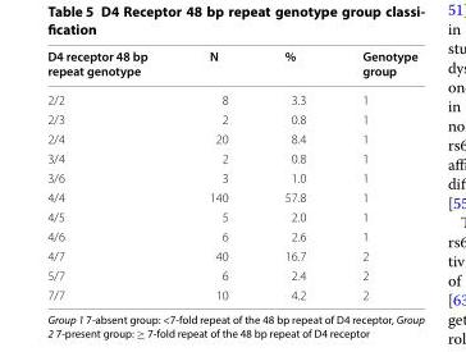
<table><thead><tr><td>D4 receptor 48 bp repeat genotype</td><td>N</td><td>%</td><td>Genotype group</td></tr></thead><tbody><tr><td>2/2</td><td>8</td><td>3.3</td><td>1</td></tr><tr><td>2/3</td><td>2</td><td>0.8</td><td>1</td></tr><tr><td>2/4</td><td>20</td><td>8.4</td><td>1</td></tr><tr><td>3/4</td><td>2</td><td>0.8</td><td>1</td></tr><tr><td>3/6</td><td>3</td><td>1.0</td><td>1</td></tr><tr><td>4/4</td><td>140</td><td>57.8</td><td>1</td></tr><tr><td>4/5</td><td>5</td><td>2.0</td><td>1</td></tr><tr><td>4/6</td><td>6</td><td>2.6</td><td>1</td></tr><tr><td>4/7</td><td>40</td><td>16.7</td><td>2</td></tr><tr><td>5/7</td><td>6</td><td>2.4</td><td>2</td></tr><tr><td>7/7</td><td>10</td><td>4.2</td><td>2</td></tr></tbody></table>